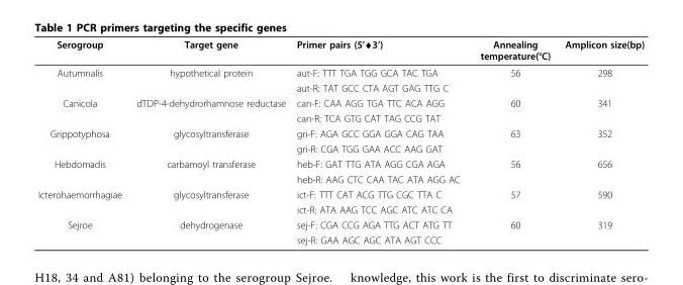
<table><thead><tr><td>Serogroup</td><td>Target gene</td><td>Primer pairs (5’→3’)</td><td>Annealing temperature(°C)</td><td>Amplicon size(bp)</td></tr></thead><tbody><tr><td rowspan="2">Autumnalis</td><td>hypothetical protein</td><td>aut-F: TTT TGA TGG GCA TAC TGA</td><td>56</td><td>298</td></tr><tr><td></td><td>aut-R: TAT GCC CTA AGT GAG TTG C</td><td></td><td></td></tr><tr><td rowspan="2">Canicola</td><td>dTDP-4-dehydrorhamnose reductase</td><td>can-F: CAA AGG TGA TTC ACA AGG</td><td>60</td><td>341</td></tr><tr><td></td><td>can-R: TCA GTG CAT TAG CCG TAT</td><td></td><td></td></tr><tr><td rowspan="2">Grippotyphosa</td><td>glycosyltransferase</td><td>gri-F: AGA GCC GGA GGA CAG TAA</td><td>63</td><td>352</td></tr><tr><td></td><td>gri-R: CGA TGG GAA ACC AAG GAT</td><td></td><td></td></tr><tr><td rowspan="2">Hebdomadis</td><td>carbamoyl transferase</td><td>heb-F: GAT TTG ATA AGG CGA AGA</td><td>56</td><td>656</td></tr><tr><td></td><td>heb-R: AAG CTC CAA TAC ATA AGG AC</td><td></td><td></td></tr><tr><td rowspan="2">Icterohaemorrhagiae</td><td>glycosyltransferase</td><td>ict-F: TTT CAT ACG TTG CGC TTA C</td><td>57</td><td>590</td></tr><tr><td></td><td>ict-R: ATA AAG TCC AGC ATC ATC CA</td><td></td><td></td></tr><tr><td rowspan="2">Sejroe</td><td>dehydrogenase</td><td>sej-F: CGA CCG AGA TTG ACT ATG TT</td><td>60</td><td>319</td></tr><tr><td></td><td>sej-R: GAA AGC AGC ATA AGT CCC</td><td></td><td></td></tr></tbody></table>